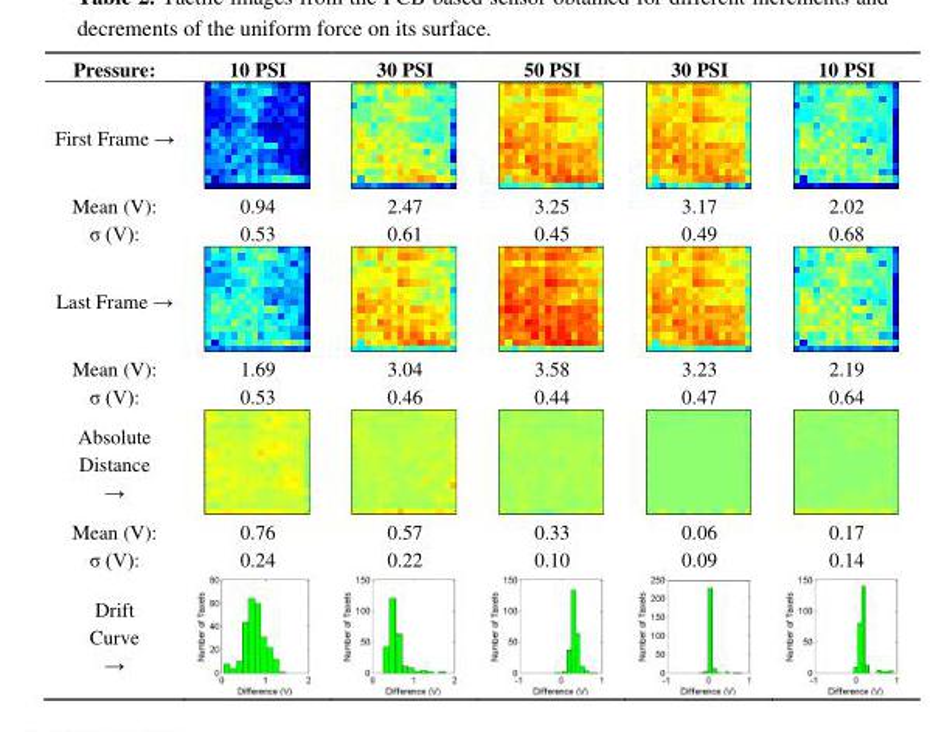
<table><thead><tr><td>Pressure:</td><td>10 PSI</td><td>30 PSI</td><td>50 PSI</td><td>30 PSI</td><td>10 PSI</td></tr></thead><tbody><tr><td colspan="6">First Frame →</td></tr><tr><td>Mean (V):</td><td>0.94</td><td>2.47</td><td>3.25</td><td>3.17</td><td>2.02</td></tr><tr><td>σ (V):</td><td>0.53</td><td>0.61</td><td>0.45</td><td>0.49</td><td>0.68</td></tr><tr><td colspan="6">Last Frame →</td></tr><tr><td>Mean (V):</td><td>1.69</td><td>3.04</td><td>3.58</td><td>3.23</td><td>2.19</td></tr><tr><td>σ (V):</td><td>0.53</td><td>0.46</td><td>0.44</td><td>0.47</td><td>0.64</td></tr><tr><td colspan="6">Absolute Distance →</td></tr><tr><td>Mean (V):</td><td>0.76</td><td>0.57</td><td>0.33</td><td>0.06</td><td>0.17</td></tr><tr><td>σ (V):</td><td>0.24</td><td>0.22</td><td>0.10</td><td>0.09</td><td>0.14</td></tr><tr><td>Drift Curve →</td><td></td><td></td><td></td><td></td><td></td></tr></tbody></table>